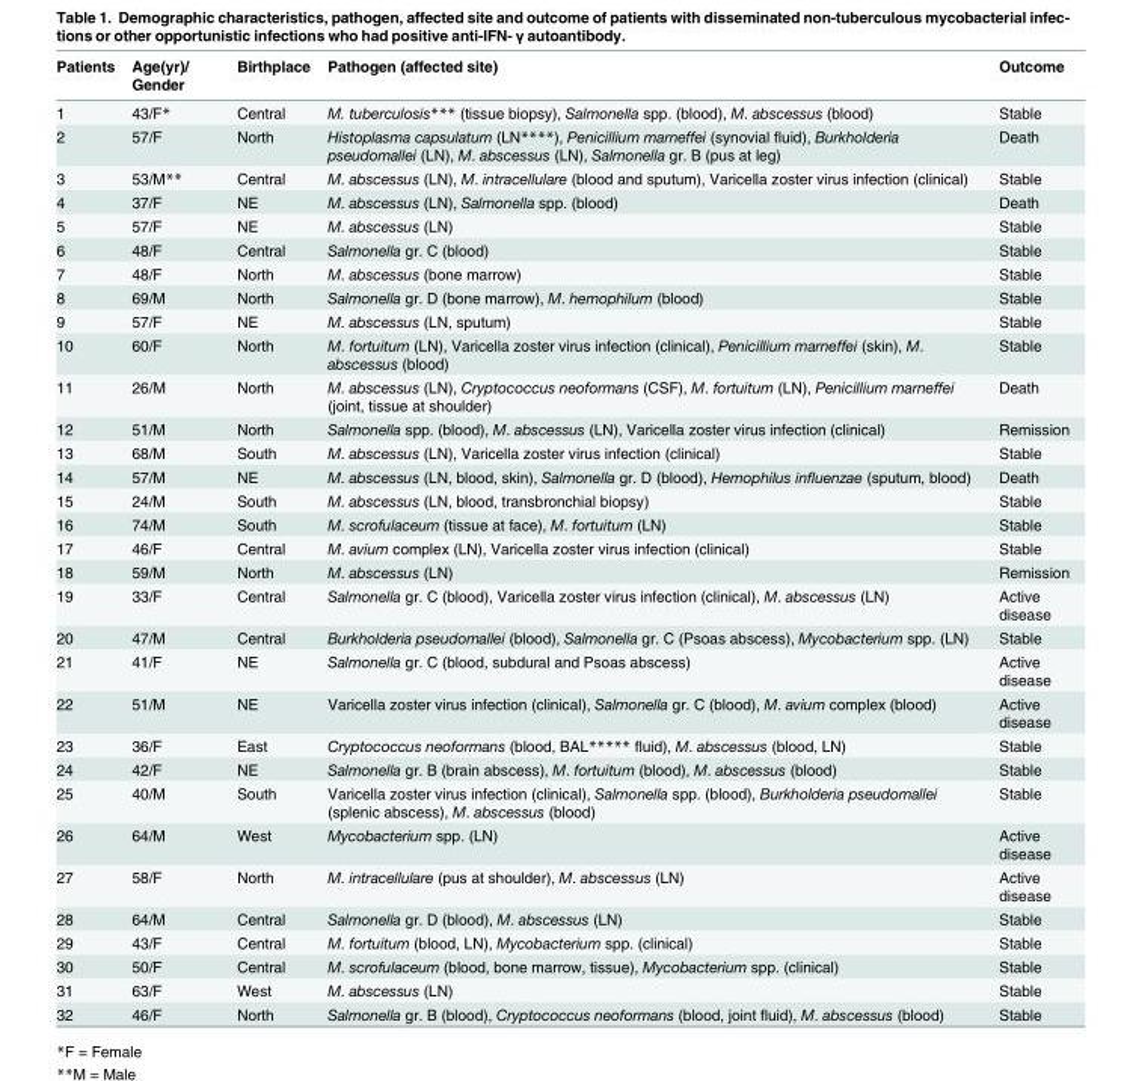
<table><thead><tr><td>Patients</td><td>Age(yr)/ Gender</td><td>Birthplace</td><td>Pathogen (affected site)</td><td>Outcome</td></tr></thead><tbody><tr><td>1</td><td>43/F*</td><td>Central</td><td>M. tuberculosis*** (tissue biopsy), Salmonella spp. (blood), M. abscessus (blood)</td><td>Stable</td></tr><tr><td>2</td><td>57/F</td><td>North</td><td>Histoplasma capsulatum (LN****), Penicillium marneffei (synovial fluid), Burkholderia pseudomallei (LN), M. abscessus (LN), Salmonella gr. B (pus at leg)</td><td>Death</td></tr><tr><td>3</td><td>53/M**</td><td>Central</td><td>M. abscessus (LN), M. intracellulare (blood and sputum), Varicella zoster virus infection (clinical)</td><td>Stable</td></tr><tr><td>4</td><td>37/F</td><td>NE</td><td>M. abscessus (LN), Salmonella spp. (blood)</td><td>Death</td></tr><tr><td>5</td><td>57/F</td><td>NE</td><td>M. abscessus (LN)</td><td>Stable</td></tr><tr><td>6</td><td>48/F</td><td>Central</td><td>Salmonella gr. C (blood)</td><td>Stable</td></tr><tr><td>7</td><td>48/F</td><td>North</td><td>M. abscessus (bone marrow)</td><td>Stable</td></tr><tr><td>8</td><td>69/M</td><td>North</td><td>Salmonella gr. D (bone marrow), M. hemophilum (blood)</td><td>Stable</td></tr><tr><td>9</td><td>57/F</td><td>NE</td><td>M. abscessus (LN, sputum)</td><td>Stable</td></tr><tr><td>10</td><td>60/F</td><td>North</td><td>M. fortuitum (LN), Varicella zoster virus infection (clinical), Penicillium marneffei (skin), M. abscessus (blood)</td><td>Stable</td></tr><tr><td>11</td><td>26/M</td><td>North</td><td>M. abscessus (LN), Cryptococcus neoformans (CSF), M. fortuitum (LN), Penicillium marneffei (joint, tissue at shoulder)</td><td>Death</td></tr><tr><td>12</td><td>51/M</td><td>North</td><td>Salmonella spp. (blood), M. abscessus (LN), Varicella zoster virus infection (clinical)</td><td>Remission</td></tr><tr><td>13</td><td>68/M</td><td>South</td><td>M. abscessus (LN), Varicella zoster virus infection (clinical)</td><td>Stable</td></tr><tr><td>14</td><td>57/M</td><td>NE</td><td>M. abscessus (LN, blood, skin), Salmonella gr. D (blood), Hemophilus influenzae (sputum, blood)</td><td>Death</td></tr><tr><td>15</td><td>24/M</td><td>South</td><td>M. abscessus (LN, blood, transbronchial biopsy)</td><td>Stable</td></tr><tr><td>16</td><td>74/M</td><td>South</td><td>M. scrofulaceum (tissue at face), M. fortuitum (LN)</td><td>Stable</td></tr><tr><td>17</td><td>46/F</td><td>Central</td><td>M. avium complex (LN), Varicella zoster virus infection (clinical)</td><td>Stable</td></tr><tr><td>18</td><td>59/M</td><td>North</td><td>M. abscessus (LN)</td><td>Remission</td></tr><tr><td>19</td><td>33/F</td><td>Central</td><td>Salmonella gr. C (blood), Varicella zoster virus infection (clinical), M. abscessus (LN)</td><td>Active disease</td></tr><tr><td>20</td><td>47/M</td><td>Central</td><td>Burkholderia pseudomallei (blood), Salmonella gr. C (Psoas abscess), Mycobacterium spp. (LN)</td><td>Stable</td></tr><tr><td>21</td><td>41/F</td><td>NE</td><td>Salmonella gr. C (blood, subdural and Psoas abscess)</td><td>Active disease</td></tr><tr><td>22</td><td>51/M</td><td>NE</td><td>Varicella zoster virus infection (clinical), Salmonella gr. C (blood), M. avium complex (blood)</td><td>Active disease</td></tr><tr><td>23</td><td>36/F</td><td>East</td><td>Cryptococcus neoformans (blood, BAL***** fluid), M. abscessus (blood, LN)</td><td>Stable</td></tr><tr><td>24</td><td>42/F</td><td>NE</td><td>Salmonella gr. B (brain abscess), M. fortuitum (blood), M. abscessus (blood)</td><td>Stable</td></tr><tr><td>25</td><td>40/M</td><td>South</td><td>Varicella zoster virus infection (clinical), Salmonella spp. (blood), Burkholderia pseudomallei (splenic abscess), M. abscessus (blood)</td><td>Stable</td></tr><tr><td>26</td><td>64/M</td><td>West</td><td>Mycobacterium spp. (LN)</td><td>Active disease</td></tr><tr><td>27</td><td>58/F</td><td>North</td><td>M. intracellulare (pus at shoulder), M. abscessus (LN)</td><td>Active disease</td></tr><tr><td>28</td><td>64/M</td><td>Central</td><td>Salmonella gr. D (blood), M. abscessus (LN)</td><td>Stable</td></tr><tr><td>29</td><td>43/F</td><td>Central</td><td>M. fortuitum (blood, LN), Mycobacterium spp. (clinical)</td><td>Stable</td></tr><tr><td>30</td><td>50/F</td><td>Central</td><td>M. scrofulaceum (blood, bone marrow, tissue), Mycobacterium spp. (clinical)</td><td>Stable</td></tr><tr><td>31</td><td>63/F</td><td>West</td><td>M. abscessus (LN)</td><td>Stable</td></tr><tr><td>32</td><td>46/F</td><td>North</td><td>Salmonella gr. B (blood), Cryptococcus neoformans (blood, joint fluid), M. abscessus (blood)</td><td>Stable</td></tr></tbody></table>